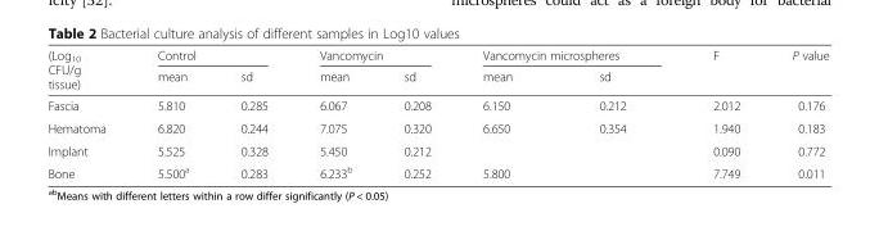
<table><thead><tr><td rowspan="2">(Log<sub>10</sub> CFU/g tissue)</td><td colspan="2">Control</td><td colspan="2">Vancomycin</td><td colspan="2">Vancomycin microspheres</td><td rowspan="2">F</td><td rowspan="2">P value</td></tr><tr><td>mean</td><td>sd</td><td>mean</td><td>sd</td><td>mean</td><td>sd</td></tr></thead><tbody><tr><td>Fascia</td><td>5.810</td><td>0.285</td><td>6.067</td><td>0.208</td><td>6.150</td><td>0.212</td><td>2.012</td><td>0.176</td></tr><tr><td>Hematoma</td><td>6.820</td><td>0.244</td><td>7.075</td><td>0.320</td><td>6.650</td><td>0.354</td><td>1.940</td><td>0.183</td></tr><tr><td>Implant</td><td>5.525</td><td>0.328</td><td>5.450</td><td>0.212</td><td></td><td></td><td>0.090</td><td>0.772</td></tr><tr><td>Bone</td><td>5.500<sup>a</sup></td><td>0.283</td><td>6.233<sup>b</sup></td><td>0.252</td><td>5.800</td><td></td><td>7.749</td><td>0.011</td></tr></tbody></table>